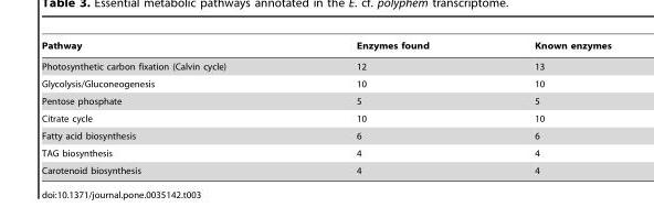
<table><thead><tr><td>Pathway</td><td>Enzymes found</td><td>Known enzymes</td></tr></thead><tbody><tr><td>Photosynthetic carbon fixation (Calvin cycle)</td><td>12</td><td>13</td></tr><tr><td>Glycolysis/Gluconeogenesis</td><td>10</td><td>10</td></tr><tr><td>Pentose phosphate</td><td>5</td><td>5</td></tr><tr><td>Citrate cycle</td><td>10</td><td>10</td></tr><tr><td>Fatty acid biosynthesis</td><td>6</td><td>6</td></tr><tr><td>TAG biosynthesis</td><td>4</td><td>4</td></tr><tr><td>Carotenoid biosynthesis</td><td>4</td><td>4</td></tr></tbody></table>